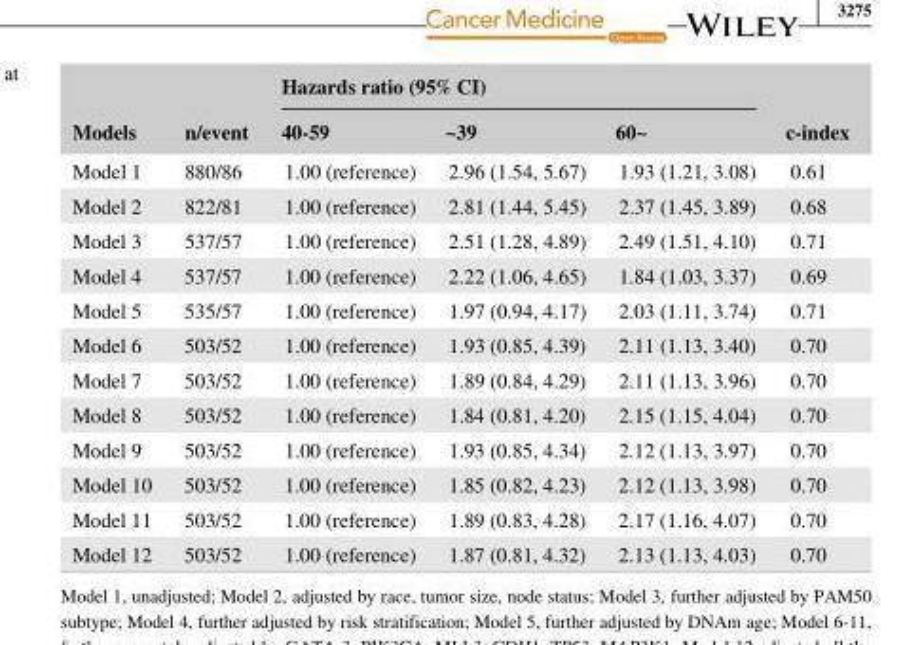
<table><thead><tr><td rowspan="2">Models</td><td rowspan="2">n/event</td><td colspan="3">Hazards ratio (95% CI)</td><td rowspan="2">c- index</td></tr><tr><td>40- 59</td><td>~39</td><td>60~</td></tr></thead><tbody><tr><td>Model 1</td><td>880/86</td><td>1.00 (reference)</td><td>2.96 (1.54, 5.67)</td><td>1.93 (1.21, 3.08)</td><td>0.61</td></tr><tr><td>Model 2</td><td>822/81</td><td>1.00 (reference)</td><td>2.81 (1.44, 5.45)</td><td>2.37 (1.45, 3.89)</td><td>0.68</td></tr><tr><td>Model 3</td><td>537/57</td><td>1.00 (reference)</td><td>2.51 (1.28, 4.89)</td><td>2.49 (1.51, 4.10)</td><td>0.71</td></tr><tr><td>Model 4</td><td>537/57</td><td>1.00 (reference)</td><td>2.22 (1.06, 4.65)</td><td>1.84 (1.03, 3.37)</td><td>0.69</td></tr><tr><td>Model 5</td><td>535/57</td><td>1.00 (reference)</td><td>1.97 (0.94, 4.17)</td><td>2.03 (1.11, 3.74)</td><td>0.71</td></tr><tr><td>Model 6</td><td>503/52</td><td>1.00 (reference)</td><td>1.93 (0.85, 4.39)</td><td>2.11 (1.13, 3.40)</td><td>0.70</td></tr><tr><td>Model 7</td><td>503/52</td><td>1.00 (reference)</td><td>1.89 (0.84, 4.29)</td><td>2.11 (1.13, 3.96)</td><td>0.70</td></tr><tr><td>Model 8</td><td>503/52</td><td>1.00 (reference)</td><td>1.84 (0.81, 4.20)</td><td>2.15 (1.15, 4.04)</td><td>0.70</td></tr><tr><td>Model 9</td><td>503/52</td><td>1.00 (reference)</td><td>1.93 (0.85, 4.34)</td><td>2.12 (1.13, 3.97)</td><td>0.70</td></tr><tr><td>Model 10</td><td>503/52</td><td>1.00 (reference)</td><td>1.85 (0.82, 4.23)</td><td>2.12 (1.13, 3.98)</td><td>0.70</td></tr><tr><td>Model 11</td><td>503/52</td><td>1.00 (reference)</td><td>1.89 (0.83, 4.28)</td><td>2.17 (1.16, 4.07)</td><td>0.70</td></tr><tr><td>Model 12</td><td>503/52</td><td>1.00 (reference)</td><td>1.87 (0.81, 4.32)</td><td>2.13 (1.13, 4.03)</td><td>0.70</td></tr></tbody></table>